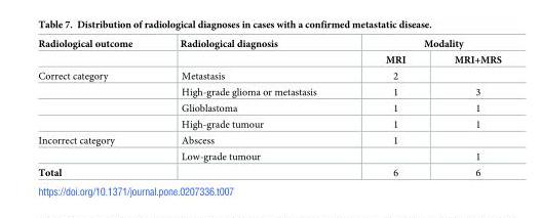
<table><thead><tr><td rowspan="2">Radiological outcome</td><td rowspan="2">Radiological diagnosis</td><td colspan="2">Modality</td></tr><tr><td>MRI</td><td>MRI+MRS</td></tr></thead><tbody><tr><td rowspan="4">Correct category</td><td>Metastasis</td><td>2</td><td></td></tr><tr><td>High-grade glioma or metastasis</td><td>1</td><td>3</td></tr><tr><td>Glioblastoma</td><td>1</td><td>1</td></tr><tr><td>High-grade tumour</td><td>1</td><td>1</td></tr><tr><td rowspan="2">Incorrect category</td><td>Abscess</td><td>1</td><td></td></tr><tr><td>Low-grade tumour</td><td></td><td>1</td></tr><tr><td>Total</td><td></td><td>6</td><td>6</td></tr></tbody></table>